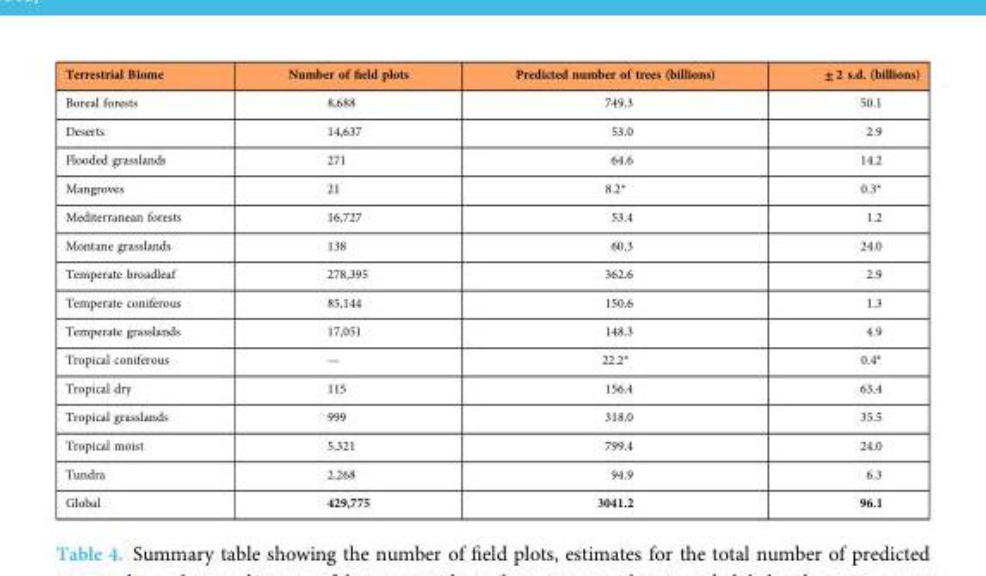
<table><thead><tr><td>Terrestrial Biome</td><td>Number of field plots</td><td>Predicted number of trees (billions)</td><td>± 2 s.d. (billions)</td></tr></thead><tbody><tr><td>Boreal forests</td><td>8,688</td><td>749.3</td><td>50.1</td></tr><tr><td>Deserts</td><td>14,637</td><td>53.0</td><td>2.9</td></tr><tr><td>Flooded grasslands</td><td>271</td><td>64.6</td><td>14.2</td></tr><tr><td>Mangroves</td><td>21</td><td>8.2*</td><td>0.3*</td></tr><tr><td>Mediterranean forests</td><td>16,727</td><td>53.4</td><td>1.2</td></tr><tr><td>Montane grasslands</td><td>138</td><td>60.3</td><td>24.0</td></tr><tr><td>Temperate broadleaf</td><td>278,395</td><td>362.6</td><td>2.9</td></tr><tr><td>Temperate coniferous</td><td>85,144</td><td>150.6</td><td>1.3</td></tr><tr><td>Temperate grasslands</td><td>17,051</td><td>148.3</td><td>4.9</td></tr><tr><td>Tropical coniferous</td><td>—</td><td>22.2*</td><td>0.4*</td></tr><tr><td>Tropical dry</td><td>115</td><td>156.4</td><td>63.4</td></tr><tr><td>Tropical grasslands</td><td>999</td><td>318.0</td><td>35.5</td></tr><tr><td>Tropical moist</td><td>5,321</td><td>799.4</td><td>24.0</td></tr><tr><td>Tundra</td><td>2,268</td><td>94.9</td><td>6.3</td></tr><tr><td>Global</td><td>429,775</td><td>3041.2</td><td>96.1</td></tr></tbody></table>